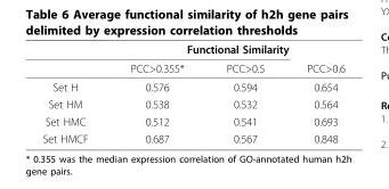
<table><thead><tr><td rowspan="2"></td><td colspan="3">Functional Similarity</td></tr><tr><td>PCC&gt;0.355*</td><td>PCC&gt;0.5</td><td>PCC&gt;0.6</td></tr></thead><tbody><tr><td>Set H</td><td>0.576</td><td>0.594</td><td>0.654</td></tr><tr><td>Set HM</td><td>0.538</td><td>0.532</td><td>0.564</td></tr><tr><td>Set HMC</td><td>0.512</td><td>0.541</td><td>0.693</td></tr><tr><td>Set HMCF</td><td>0.687</td><td>0.567</td><td>0.848</td></tr></tbody></table>